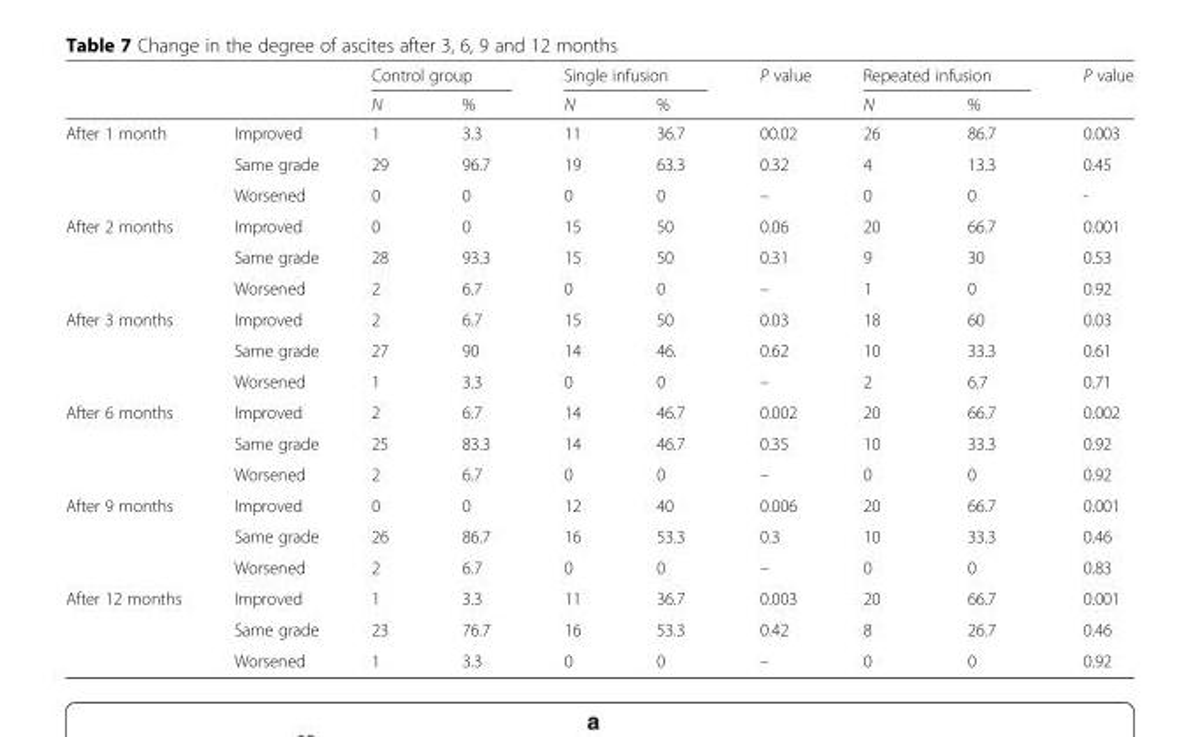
<table><thead><tr><td rowspan="2"></td><td rowspan="2"></td><td colspan="2">Control group</td><td colspan="2">Single infusion</td><td rowspan="2">P value</td><td colspan="2">Repeated infusion</td><td rowspan="2">P value</td></tr><tr><td>N</td><td>%</td><td>N</td><td>%</td><td>N</td><td>%</td></tr></thead><tbody><tr><td rowspan="3">After 1 month</td><td>Improved</td><td>1</td><td>3.3</td><td>11</td><td>36.7</td><td>00.02</td><td>26</td><td>86.7</td><td>0.003</td></tr><tr><td>Same grade</td><td>29</td><td>96.7</td><td>19</td><td>63.3</td><td>0.32</td><td>4</td><td>13.3</td><td>0.45</td></tr><tr><td>Worsened</td><td>0</td><td>0</td><td>0</td><td>0</td><td>–</td><td>0</td><td>0</td><td>-</td></tr><tr><td rowspan="3">After 2 months</td><td>Improved</td><td>0</td><td>0</td><td>15</td><td>50</td><td>0.06</td><td>20</td><td>66.7</td><td>0.001</td></tr><tr><td>Same grade</td><td>28</td><td>93.3</td><td>15</td><td>50</td><td>0.31</td><td>9</td><td>30</td><td>0.53</td></tr><tr><td>Worsened</td><td>2</td><td>6.7</td><td>0</td><td>0</td><td>–</td><td>1</td><td>0</td><td>0.92</td></tr><tr><td rowspan="3">After 3 months</td><td>Improved</td><td>2</td><td>6.7</td><td>15</td><td>50</td><td>0.03</td><td>18</td><td>60</td><td>0.03</td></tr><tr><td>Same grade</td><td>27</td><td>90</td><td>14</td><td>46.</td><td>0.62</td><td>10</td><td>33.3</td><td>0.61</td></tr><tr><td>Worsened</td><td>1</td><td>3.3</td><td>0</td><td>0</td><td>–</td><td>2</td><td>6.7</td><td>0.71</td></tr><tr><td rowspan="3">After 6 months</td><td>Improved</td><td>2</td><td>6.7</td><td>14</td><td>46.7</td><td>0.002</td><td>20</td><td>66.7</td><td>0.002</td></tr><tr><td>Same grade</td><td>25</td><td>83.3</td><td>14</td><td>46.7</td><td>0.35</td><td>10</td><td>33.3</td><td>0.92</td></tr><tr><td>Worsened</td><td>2</td><td>6.7</td><td>0</td><td>0</td><td>–</td><td>0</td><td>0</td><td>0.92</td></tr><tr><td rowspan="3">After 9 months</td><td>Improved</td><td>0</td><td>0</td><td>12</td><td>40</td><td>0.006</td><td>20</td><td>66.7</td><td>0.001</td></tr><tr><td>Same grade</td><td>26</td><td>86.7</td><td>16</td><td>53.3</td><td>0.3</td><td>10</td><td>33.3</td><td>0.46</td></tr><tr><td>Worsened</td><td>2</td><td>6.7</td><td>0</td><td>0</td><td>–</td><td>0</td><td>0</td><td>0.83</td></tr><tr><td rowspan="3">After 12 months</td><td>Improved</td><td>1</td><td>3.3</td><td>11</td><td>36.7</td><td>0.003</td><td>20</td><td>66.7</td><td>0.001</td></tr><tr><td>Same grade</td><td>23</td><td>76.7</td><td>16</td><td>53.3</td><td>0.42</td><td>8</td><td>26.7</td><td>0.46</td></tr><tr><td>Worsened</td><td>1</td><td>3.3</td><td>0</td><td>0</td><td>–</td><td>0</td><td>0</td><td>0.92</td></tr></tbody></table>